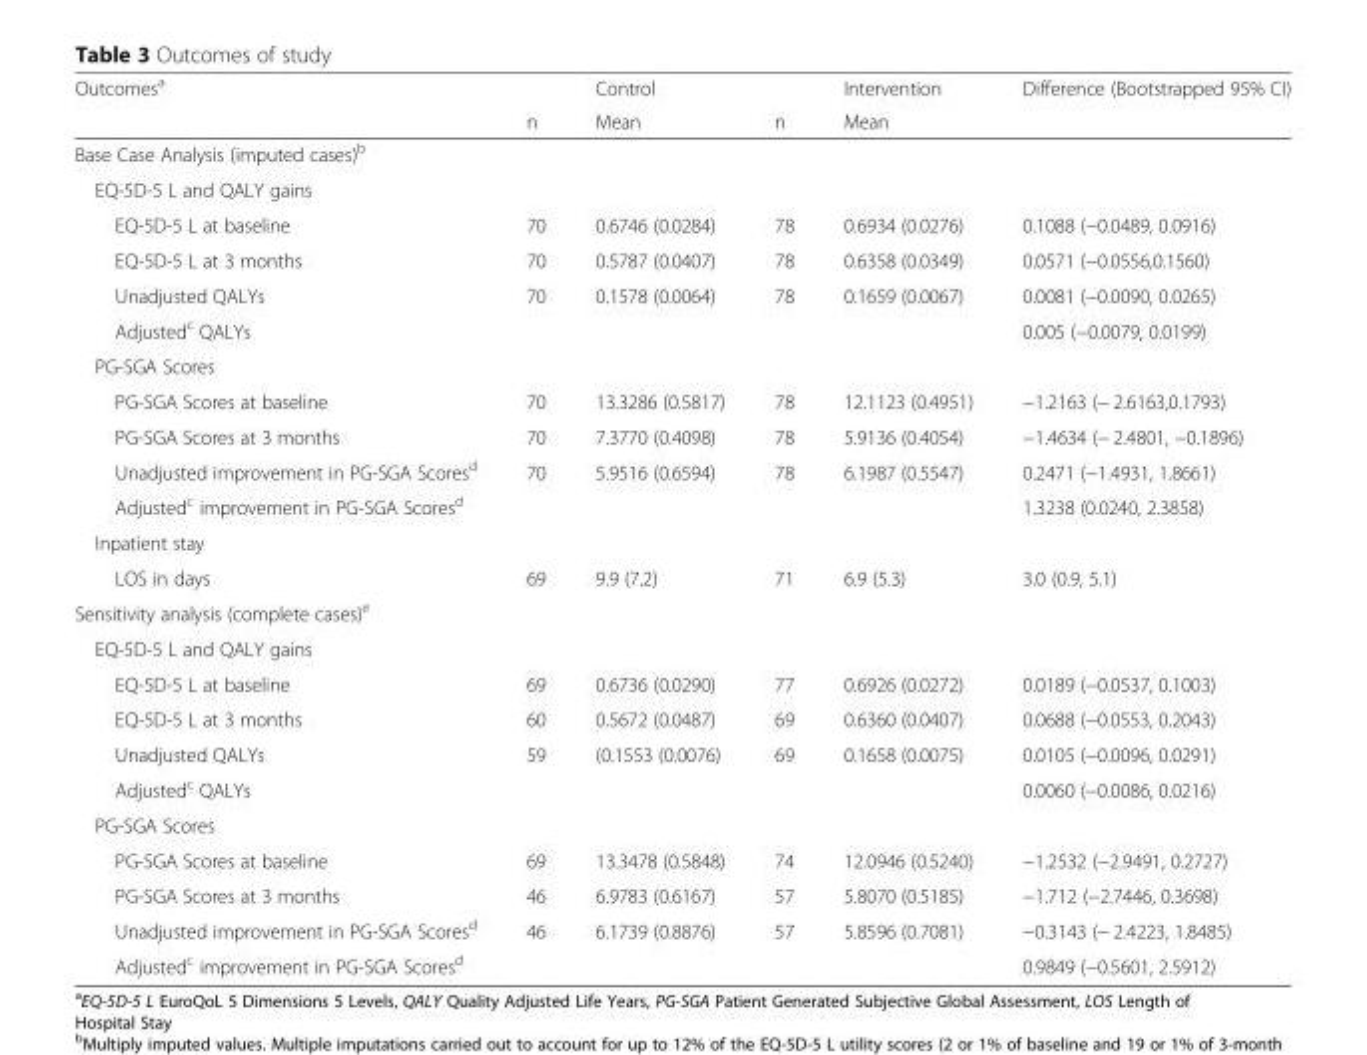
<table><thead><tr><td rowspan="2">Outcomes<sup>a</sup></td><td rowspan="2">n</td><td rowspan="2">Control Mean</td><td rowspan="2">n</td><td rowspan="2">Intervention Mean</td><td rowspan="2">Difference (Bootstrapped 95% CI)</td></tr><tr></tr></thead><tbody><tr><td colspan="6">Base Case Analysis (imputed cases)<sup>b</sup></td></tr><tr><td colspan="6">EQ-5D-5 L and QALY gains</td></tr><tr><td>EQ-5D-5 L at baseline</td><td>70</td><td>0.6746 (0.0284)</td><td>78</td><td>0.6934 (0.0276)</td><td>0.1088 (−0.0489, 0.0916)</td></tr><tr><td>EQ-5D-5 L at 3 months</td><td>70</td><td>0.5787 (0.0407)</td><td>78</td><td>0.6358 (0.0349)</td><td>0.0571 (−0.0556,0.1560)</td></tr><tr><td>Unadjusted QALYs</td><td>70</td><td>0.1578 (0.0064)</td><td>78</td><td>0.1659 (0.0067)</td><td>0.0081 (−0.0090, 0.0265)</td></tr><tr><td>Adjusted<sup>c</sup> QALYs</td><td></td><td></td><td></td><td></td><td>0.005 (−0.0079, 0.0199)</td></tr><tr><td colspan="6">PG-SGA Scores</td></tr><tr><td>PG-SGA Scores at baseline</td><td>70</td><td>13.3286 (0.5817)</td><td>78</td><td>12.1123 (0.4951)</td><td>−1.2163 (− 2.6163,0.1793)</td></tr><tr><td>PG-SGA Scores at 3 months</td><td>70</td><td>7.3770 (0.4098)</td><td>78</td><td>5.9136 (0.4054)</td><td>−1.4634 (− 2.4801, −0.1896)</td></tr><tr><td>Unadjusted improvement in PG-SGA Scores<sup>d</sup></td><td>70</td><td>5.9516 (0.6594)</td><td>78</td><td>6.1987 (0.5547)</td><td>0.2471 (−1.4931, 1.8661)</td></tr><tr><td>Adjusted<sup>c</sup> improvement in PG-SGA Scores<sup>d</sup></td><td></td><td></td><td></td><td></td><td>1.3238 (0.0240, 2.3858)</td></tr><tr><td colspan="6">Inpatient stay</td></tr><tr><td>LOS in days</td><td>69</td><td>9.9 (7.2)</td><td>71</td><td>6.9 (5.3)</td><td>3.0 (0.9, 5.1)</td></tr><tr><td colspan="6">Sensitivity analysis (complete cases)<sup>e</sup></td></tr><tr><td colspan="6">EQ-5D-5 L and QALY gains</td></tr><tr><td>EQ-5D-5 L at baseline</td><td>69</td><td>0.6736 (0.0290)</td><td>77</td><td>0.6926 (0.0272)</td><td>0.0189 (−0.0537, 0.1003)</td></tr><tr><td>EQ-5D-5 L at 3 months</td><td>60</td><td>0.5672 (0.0487)</td><td>69</td><td>0.6360 (0.0407)</td><td>0.0688 (−0.0553, 0.2043)</td></tr><tr><td>Unadjusted QALYs</td><td>59</td><td>(0.1553 (0.0076)</td><td>69</td><td>0.1658 (0.0075)</td><td>0.0105 (−0.0096, 0.0291)</td></tr><tr><td>Adjusted<sup>c</sup> QALYs</td><td></td><td></td><td></td><td></td><td>0.0060 (−0.0086, 0.0216)</td></tr><tr><td colspan="6">PG-SGA Scores</td></tr><tr><td>PG-SGA Scores at baseline</td><td>69</td><td>13.3478 (0.5848)</td><td>74</td><td>12.0946 (0.5240)</td><td>−1.2532 (−2.9491, 0.2727)</td></tr><tr><td>PG-SGA Scores at 3 months</td><td>46</td><td>6.9783 (0.6167)</td><td>57</td><td>5.8070 (0.5185)</td><td>−1.712 (−2.7446, 0.3698)</td></tr><tr><td>Unadjusted improvement in PG-SGA Scores<sup>d</sup></td><td>46</td><td>6.1739 (0.8876)</td><td>57</td><td>5.8596 (0.7081)</td><td>−0.3143 (− 2.4223, 1.8485)</td></tr><tr><td>Adjusted<sup>c</sup> improvement in PG-SGA Scores<sup>d</sup></td><td></td><td></td><td></td><td></td><td>0.9849 (−0.5601, 2.5912)</td></tr></tbody></table>